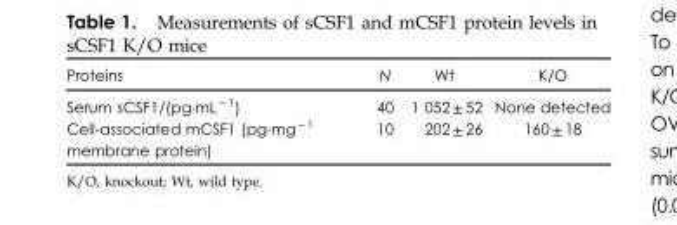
<table><thead><tr><td>Proteins</td><td>N</td><td>Wt</td><td>K/O</td></tr></thead><tbody><tr><td>Serum sCSF1/(pg·mL <sup>− 1</sup>)</td><td>40</td><td>1 052 ± 52</td><td>None detected</td></tr><tr><td>Cell-associated mCSF1 (pg·mg <sup>− 1</sup> membrane protein)</td><td>10</td><td>202 ± 26</td><td>160 ± 18</td></tr></tbody></table>